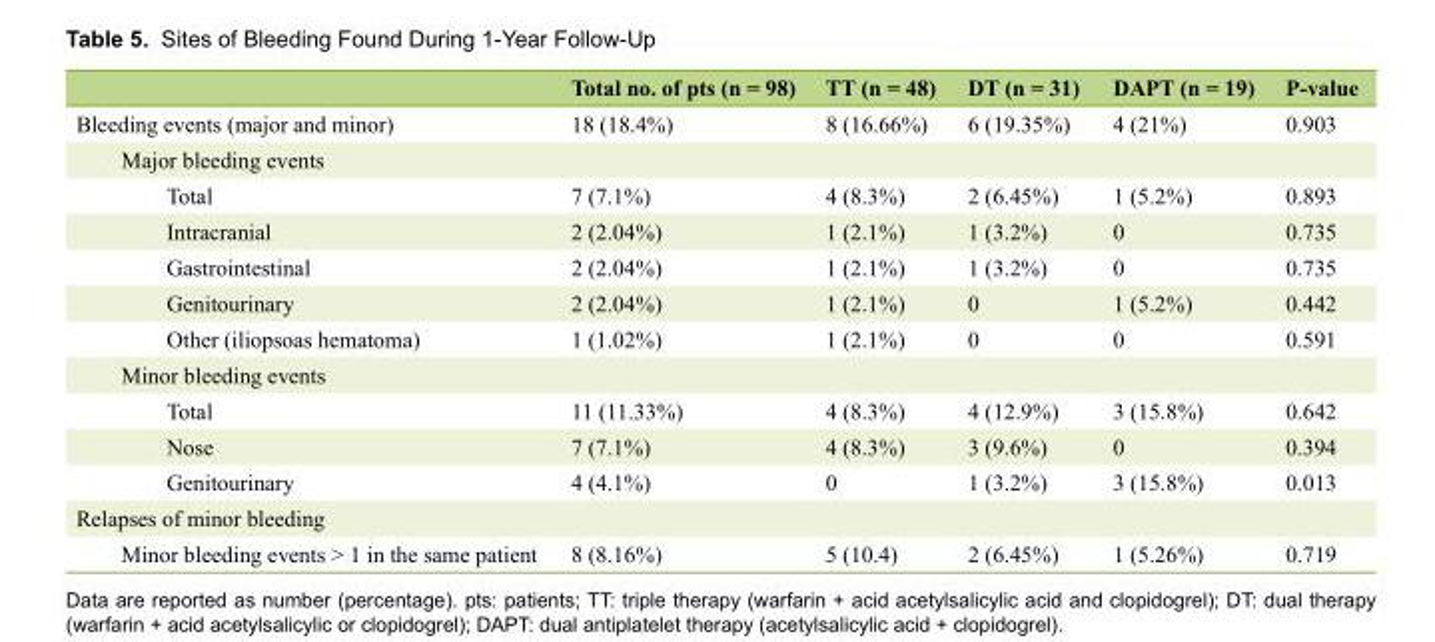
<table><thead><tr><td></td><td>Total no. of pts (n = 98)</td><td>TT (n = 48)</td><td>DT (n = 31)</td><td>DAPT (n = 19)</td><td>P-value</td></tr></thead><tbody><tr><td>Bleeding events (major and minor)</td><td>18 (18.4%)</td><td>8 (16.66%)</td><td>6 (19.35%)</td><td>4 (21%)</td><td>0.903</td></tr><tr><td colspan="6">Major bleeding events</td></tr><tr><td>Total</td><td>7 (7.1%)</td><td>4 (8.3%)</td><td>2 (6.45%)</td><td>1 (5.2%)</td><td>0.893</td></tr><tr><td>Intracranial</td><td>2 (2.04%)</td><td>1 (2.1%)</td><td>1 (3.2%)</td><td>0</td><td>0.735</td></tr><tr><td>Gastrointestinal</td><td>2 (2.04%)</td><td>1 (2.1%)</td><td>1 (3.2%)</td><td>0</td><td>0.735</td></tr><tr><td>Genitourinary</td><td>2 (2.04%)</td><td>1 (2.1%)</td><td>0</td><td>1 (5.2%)</td><td>0.442</td></tr><tr><td>Other (iliopsoas hematoma)</td><td>1 (1.02%)</td><td>1 (2.1%)</td><td>0</td><td>0</td><td>0.591</td></tr><tr><td colspan="6">Minor bleeding events</td></tr><tr><td>Total</td><td>11 (11.33%)</td><td>4 (8.3%)</td><td>4 (12.9%)</td><td>3 (15.8%)</td><td>0.642</td></tr><tr><td>Nose</td><td>7 (7.1%)</td><td>4 (8.3%)</td><td>3 (9.6%)</td><td>0</td><td>0.394</td></tr><tr><td>Genitourinary</td><td>4 (4.1%)</td><td>0</td><td>1 (3.2%)</td><td>3 (15.8%)</td><td>0.013</td></tr><tr><td colspan="6">Relapses of minor bleeding</td></tr><tr><td>Minor bleeding events &gt; 1 in the same patient</td><td>8 (8.16%)</td><td>5 (10.4)</td><td>2 (6.45%)</td><td>1 (5.26%)</td><td>0.719</td></tr></tbody></table>